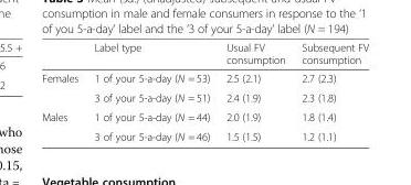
<table><thead><tr><td></td><td>Label type</td><td>Usual FV consumption</td><td>Subsequent FV consumption</td></tr></thead><tbody><tr><td rowspan="2">Females</td><td>1 of your 5-a-day (N = 53)</td><td>2.5 (2.1)</td><td>2.7 (2.3)</td></tr><tr><td>3 of your 5-a-day (N = 51)</td><td>2.4 (1.9)</td><td>2.3 (1.8)</td></tr><tr><td rowspan="2">Males</td><td>1 of your 5-a-day (N = 44)</td><td>2.0 (1.9)</td><td>1.8 (1.4)</td></tr><tr><td>3 of your 5-a-day (N = 46)</td><td>1.5 (1.5)</td><td>1.2 (1.1)</td></tr></tbody></table>